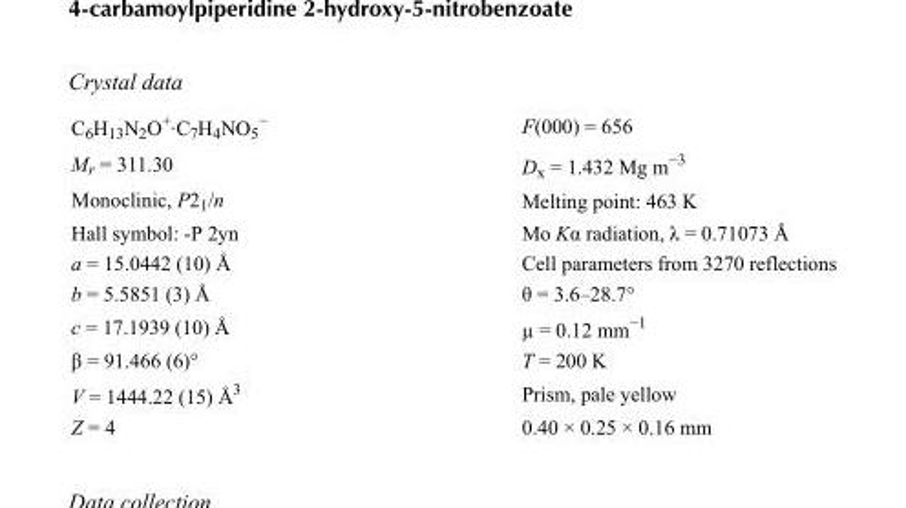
<table><tbody><tr><td>Crystal data C6H13N2O+·C7H4NO5 −</td><td>F(000) = 656</td></tr><tr><td>M<sub>r</sub> = 311.30</td><td>D<sub>x</sub> = 1.432 Mg m<sup>−3</sup></td></tr><tr><td>Monoclinic, P2<sub>1</sub>/n</td><td>Melting point: 463 K</td></tr><tr><td>Hall symbol: -P 2yn</td><td>Mo Kα radiation, λ = 0.71073 Å</td></tr><tr><td>a = 15.0442 (10) Å</td><td>Cell parameters from 3270 reflections</td></tr><tr><td>b = 5.5851 (3) Å</td><td>θ = 3.6–28.7°</td></tr><tr><td>c = 17.1939 (10) Å</td><td>µ = 0.12 mm<sup>−1</sup></td></tr><tr><td>β = 91.466 (6)°</td><td>T = 200 K</td></tr><tr><td>V = 1444.22 (15) Å<sup>3</sup></td><td>Prism, pale yellow</td></tr><tr><td>Z = 4</td><td>0.40 × 0.25 × 0.16 mm</td></tr></tbody></table>